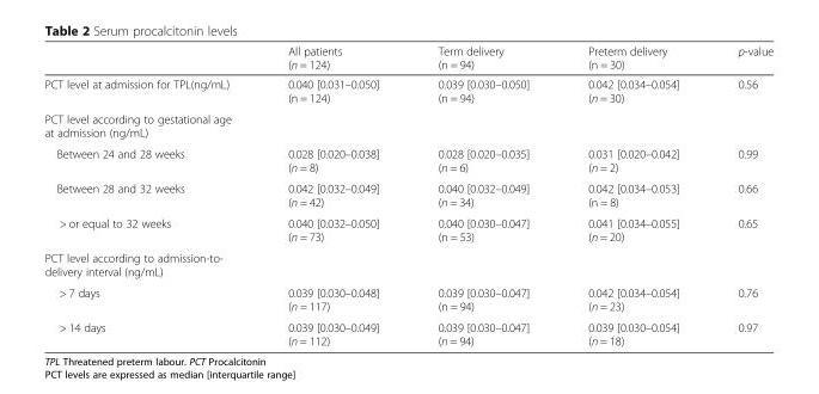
<table><thead><tr><td></td><td>All patients (n = 124)</td><td>Term delivery (n = 94)</td><td>Preterm delivery (n = 30)</td><td>p-value</td></tr></thead><tbody><tr><td>PCT level at admission for TPL(ng/mL)</td><td>0.040 [0.031–0.050] (n = 124)</td><td>0.039 [0.030–0.050] (n = 94)</td><td>0.042 [0.034–0.054] (n = 30)</td><td>0.56</td></tr><tr><td colspan="5">PCT level according to gestational age at admission (ng/mL)</td></tr><tr><td>Between 24 and 28 weeks</td><td>0.028 [0.020–0.038] (n = 8)</td><td>0.028 [0.020–0.035] (n = 6)</td><td>0.031 [0.020–0.042] (n = 2)</td><td>0.99</td></tr><tr><td>Between 28 and 32 weeks</td><td>0.042 [0.032–0.049] (n = 42)</td><td>0.040 [0.032–0.049] (n = 34)</td><td>0.042 [0.034–0.053] (n = 8)</td><td>0.66</td></tr><tr><td>&gt; or equal to 32 weeks</td><td>0.040 [0.032–0.050] (n = 73)</td><td>0.040 [0.030–0.047] (n = 53)</td><td>0.041 [0.034–0.055] (n = 20)</td><td>0.65</td></tr><tr><td colspan="5">PCT level according to admission-to- delivery interval (ng/mL)</td></tr><tr><td>&gt; 7 days</td><td>0.039 [0.030–0.048] (n = 117)</td><td>0.039 [0.030–0.047] (n = 94)</td><td>0.042 [0.034–0.054] (n = 23)</td><td>0.76</td></tr><tr><td>&gt; 14 days</td><td>0.039 [0.030–0.049] (n = 112)</td><td>0.039 [0.030–0.047] (n = 94)</td><td>0.039 [0.030–0.054] (n = 18)</td><td>0.97</td></tr></tbody></table>